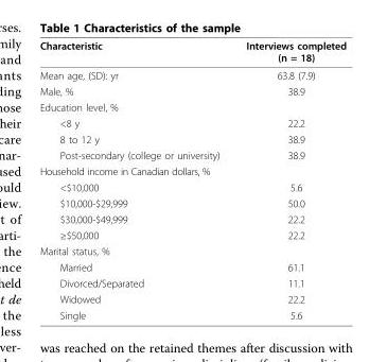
<table><thead><tr><td>Characteristic</td><td>Interviews completed (n = 18)</td></tr></thead><tbody><tr><td>Mean age, (SD): yr</td><td>63.8 (7.9)</td></tr><tr><td>Male, %</td><td>38.9</td></tr><tr><td colspan="2">Education level, %</td></tr><tr><td>&lt;8 y</td><td>22.2</td></tr><tr><td>8 to 12 y</td><td>38.9</td></tr><tr><td>Post-secondary (college or university)</td><td>38.9</td></tr><tr><td colspan="2">Household income in Canadian dollars, %</td></tr><tr><td>&lt;$10,000</td><td>5.6</td></tr><tr><td>$10,000-$29,999</td><td>50.0</td></tr><tr><td>$30,000-$49,999</td><td>22.2</td></tr><tr><td>≥$50,000</td><td>22.2</td></tr><tr><td colspan="2">Marital status, %</td></tr><tr><td>Married</td><td>61.1</td></tr><tr><td>Divorced/Separated</td><td>11.1</td></tr><tr><td>Widowed</td><td>22.2</td></tr><tr><td>Single</td><td>5.6</td></tr></tbody></table>